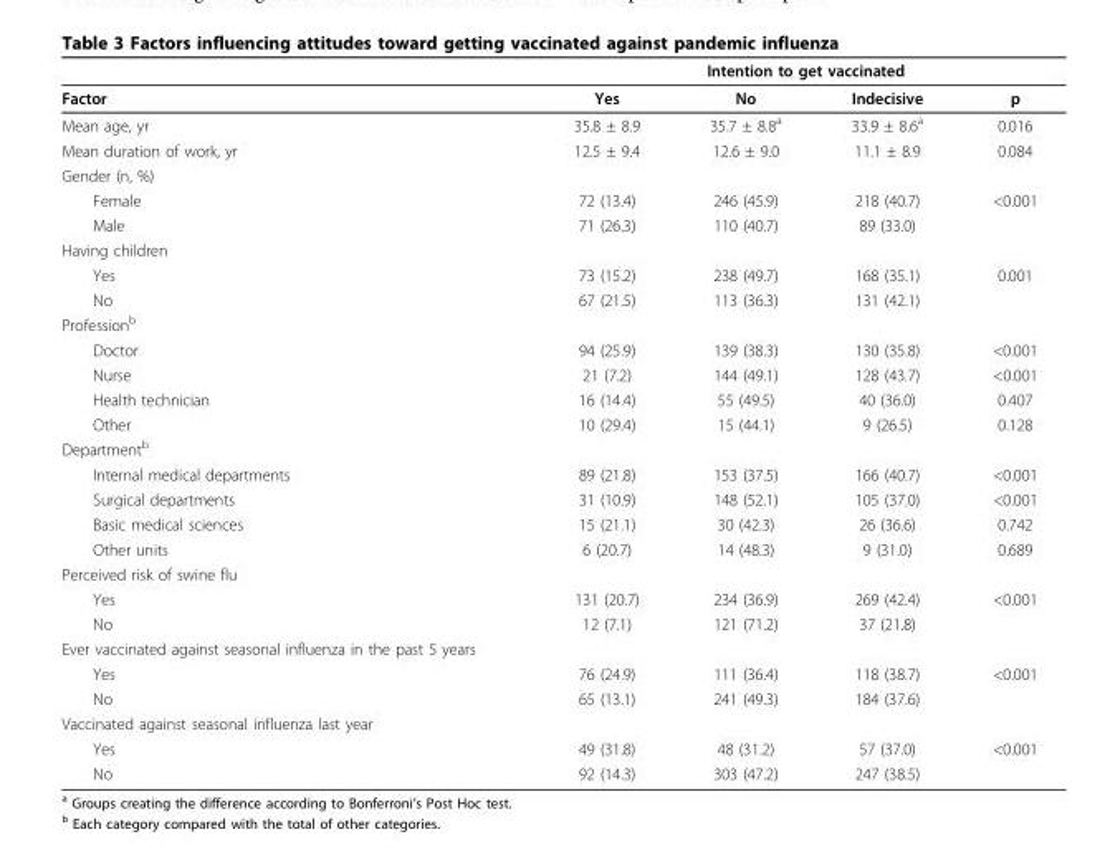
<table><thead><tr><td rowspan="2">Factor</td><td colspan="4">Intention to get vaccinated</td></tr><tr><td>Yes</td><td>No</td><td>Indecisive</td><td>p</td></tr></thead><tbody><tr><td>Mean age, yr</td><td>35.8 ± 8.9</td><td>35.7 ± 8.8<sup>a</sup></td><td>33.9 ± 8.6<sup>a</sup></td><td>0.016</td></tr><tr><td>Mean duration of work, yr</td><td>12.5 ± 9.4</td><td>12.6 ± 9.0</td><td>11.1 ± 8.9</td><td>0.084</td></tr><tr><td colspan="5">Gender (n, %)</td></tr><tr><td>Female</td><td>72 (13.4)</td><td>246 (45.9)</td><td>218 (40.7)</td><td>&lt;0.001</td></tr><tr><td>Male</td><td>71 (26.3)</td><td>110 (40.7)</td><td>89 (33.0)</td><td></td></tr><tr><td colspan="5">Having children</td></tr><tr><td>Yes</td><td>73 (15.2)</td><td>238 (49.7)</td><td>168 (35.1)</td><td>0.001</td></tr><tr><td>No</td><td>67 (21.5)</td><td>113 (36.3)</td><td>131 (42.1)</td><td></td></tr><tr><td colspan="5">Profession<sup>b</sup></td></tr><tr><td>Doctor</td><td>94 (25.9)</td><td>139 (38.3)</td><td>130 (35.8)</td><td>&lt;0.001</td></tr><tr><td>Nurse</td><td>21 (7.2)</td><td>144 (49.1)</td><td>128 (43.7)</td><td>&lt;0.001</td></tr><tr><td>Health technician</td><td>16 (14.4)</td><td>55 (49.5)</td><td>40 (36.0)</td><td>0.407</td></tr><tr><td>Other</td><td>10 (29.4)</td><td>15 (44.1)</td><td>9 (26.5)</td><td>0.128</td></tr><tr><td colspan="5">Department<sup>b</sup></td></tr><tr><td>Internal medical departments</td><td>89 (21.8)</td><td>153 (37.5)</td><td>166 (40.7)</td><td>&lt;0.001</td></tr><tr><td>Surgical departments</td><td>31 (10.9)</td><td>148 (52.1)</td><td>105 (37.0)</td><td>&lt;0.001</td></tr><tr><td>Basic medical sciences</td><td>15 (21.1)</td><td>30 (42.3)</td><td>26 (36.6)</td><td>0.742</td></tr><tr><td>Other units</td><td>6 (20.7)</td><td>14 (48.3)</td><td>9 (31.0)</td><td>0.689</td></tr><tr><td colspan="5">Perceived risk of swine flu</td></tr><tr><td>Yes</td><td>131 (20.7)</td><td>234 (36.9)</td><td>269 (42.4)</td><td>&lt;0.001</td></tr><tr><td>No</td><td>12 (7.1)</td><td>121 (71.2)</td><td>37 (21.8)</td><td></td></tr><tr><td colspan="5">Ever vaccinated against seasonal influenza in the past 5 years</td></tr><tr><td>Yes</td><td>76 (24.9)</td><td>111 (36.4)</td><td>118 (38.7)</td><td>&lt;0.001</td></tr><tr><td>No</td><td>65 (13.1)</td><td>241 (49.3)</td><td>184 (37.6)</td><td></td></tr><tr><td colspan="5">Vaccinated against seasonal influenza last year</td></tr><tr><td>Yes</td><td>49 (31.8)</td><td>48 (31.2)</td><td>57 (37.0)</td><td>&lt;0.001</td></tr><tr><td>No</td><td>92 (14.3)</td><td>303 (47.2)</td><td>247 (38.5)</td><td></td></tr></tbody></table>